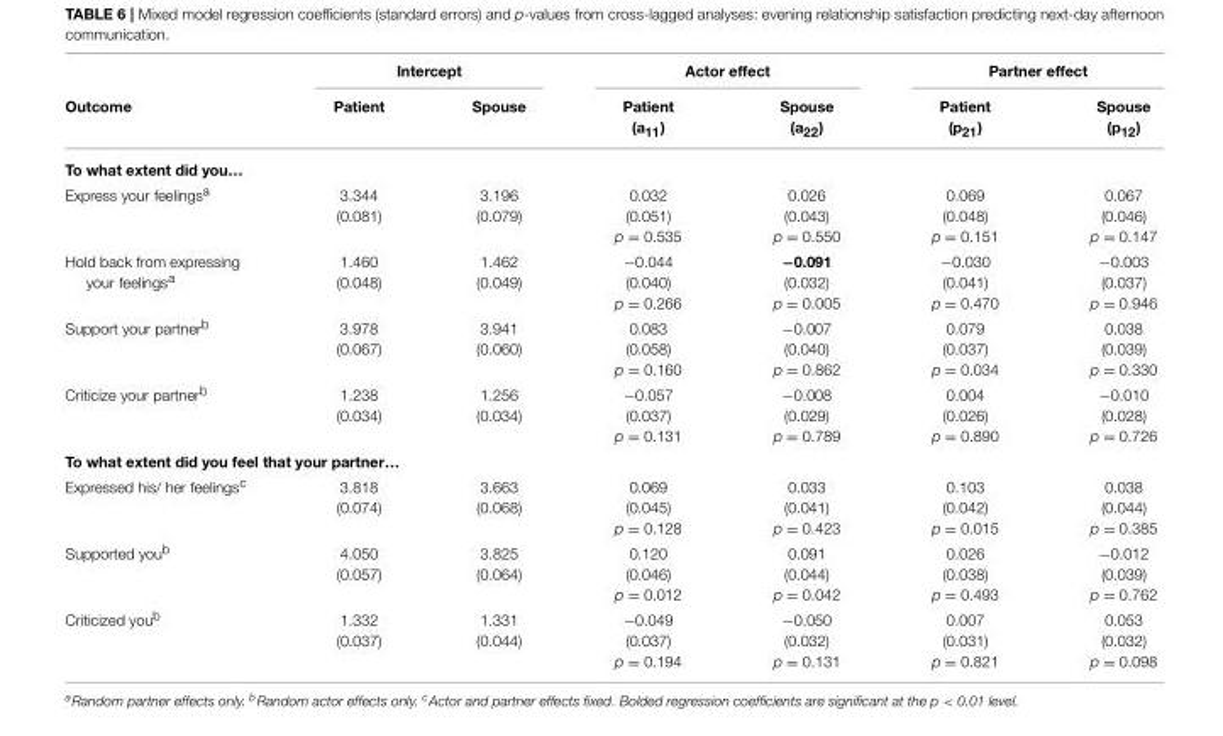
<table><thead><tr><td rowspan="2">Outcome</td><td colspan="2">Intercept</td><td colspan="2">Actor effect</td><td colspan="2">Partner effect</td></tr><tr><td>Patient</td><td>Spouse</td><td>Patient (a<sub>11</sub>)</td><td>Spouse (a<sub>22</sub>)</td><td>Patient (p<sub>21</sub>)</td><td>Spouse (p<sub>12</sub>)</td></tr></thead><tbody><tr><td colspan="7">To what extent did you…</td></tr><tr><td>Express your feelings<sup>a</sup></td><td>3.344 (0.081)</td><td>3.196 (0.079)</td><td>0.032 (0.051) p = 0.535</td><td>0.026 (0.043) p = 0.550</td><td>0.069 (0.048) p = 0.151</td><td>0.067 (0.046) p = 0.147</td></tr><tr><td>Hold back from expressing your feelings<sup>a</sup></td><td>1.460 (0.048)</td><td>1.462 (0.049)</td><td>−0.044 (0.040) p = 0.266</td><td>−0.091 (0.032) p = 0.005</td><td>−0.030 (0.041) p = 0.470</td><td>−0.003 (0.037) p = 0.946</td></tr><tr><td>Support your partner<sup>b</sup></td><td>3.978 (0.067)</td><td>3.941 (0.060)</td><td>0.083 (0.058) p = 0.160</td><td>−0.007 (0.040) p = 0.862</td><td>0.079 (0.037) p = 0.034</td><td>0.038 (0.039) p = 0.330</td></tr><tr><td>Criticize your partner<sup>b</sup></td><td>1.238 (0.034)</td><td>1.256 (0.034)</td><td>−0.057 (0.037) p = 0.131</td><td>−0.008 (0.029) p = 0.789</td><td>0.004 (0.026) p = 0.890</td><td>−0.010 (0.028) p = 0.726</td></tr><tr><td colspan="7">To what extent did you feel that your partner…</td></tr><tr><td>Expressed his/ her feelings<sup>c</sup></td><td>3.818 (0.074)</td><td>3.663 (0.068)</td><td>0.069 (0.045) p = 0.128</td><td>0.033 (0.041) p = 0.423</td><td>0.103 (0.042) p = 0.015</td><td>0.038 (0.044) p = 0.385</td></tr><tr><td>Supported you<sup>b</sup></td><td>4.050 (0.057)</td><td>3.825 (0.064)</td><td>0.120 (0.046) p = 0.012</td><td>0.091 (0.044) p = 0.042</td><td>0.026 (0.038) p = 0.493</td><td>−0.012 (0.039) p = 0.762</td></tr><tr><td>Criticized you<sup>b</sup></td><td>1.332 (0.037)</td><td>1.331 (0.044)</td><td>−0.049 (0.037) p = 0.194</td><td>−0.050 (0.032) p = 0.131</td><td>0.007 (0.031) p = 0.821</td><td>0.053 (0.032) p = 0.098</td></tr></tbody></table>